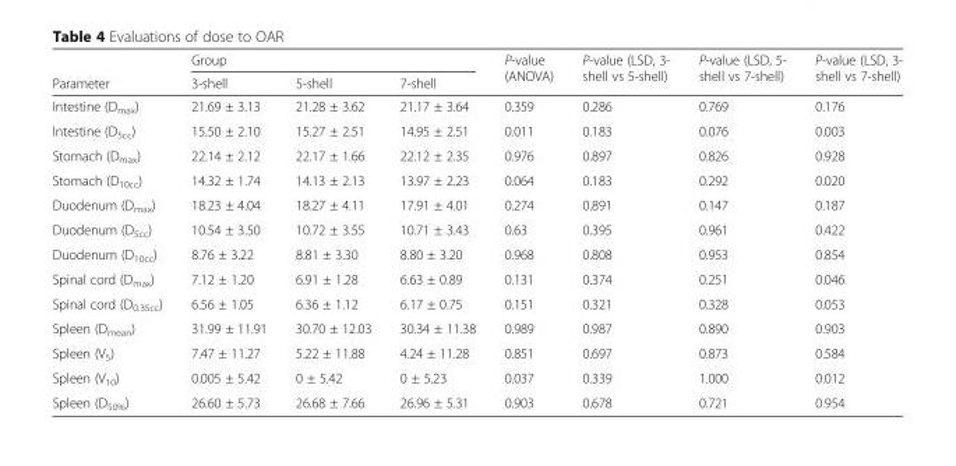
<table><thead><tr><td rowspan="2">Parameter</td><td colspan="3">Group</td><td rowspan="2">P-value (ANOVA)</td><td rowspan="2">P-value (LSD, 3- shell vs 5-shell)</td><td rowspan="2">P-value (LSD, 5- shell vs 7-shell)</td><td rowspan="2">P-value (LSD, 3- shell vs 7-shell)</td></tr><tr><td>3-shell</td><td>5-shell</td><td>7-shell</td></tr></thead><tbody><tr><td>Intestine (D<sub>max</sub>)</td><td>21.69 ± 3.13</td><td>21.28 ± 3.62</td><td>21.17 ± 3.64</td><td>0.359</td><td>0.286</td><td>0.769</td><td>0.176</td></tr><tr><td>Intestine (D<sub>5cc</sub>)</td><td>15.50 ± 2.10</td><td>15.27 ± 2.51</td><td>14.95 ± 2.51</td><td>0.011</td><td>0.183</td><td>0.076</td><td>0.003</td></tr><tr><td>Stomach (D<sub>max</sub>)</td><td>22.14 ± 2.12</td><td>22.17 ± 1.66</td><td>22.12 ± 2.35</td><td>0.976</td><td>0.897</td><td>0.826</td><td>0.928</td></tr><tr><td>Stomach (D<sub>10cc</sub>)</td><td>14.32 ± 1.74</td><td>14.13 ± 2.13</td><td>13.97 ± 2.23</td><td>0.064</td><td>0.183</td><td>0.292</td><td>0.020</td></tr><tr><td>Duodenum (D<sub>max</sub>)</td><td>18.23 ± 4.04</td><td>18.27 ± 4.11</td><td>17.91 ± 4.01</td><td>0.274</td><td>0.891</td><td>0.147</td><td>0.187</td></tr><tr><td>Duodenum (D<sub>5cc</sub>)</td><td>10.54 ± 3.50</td><td>10.72 ± 3.55</td><td>10.71 ± 3.43</td><td>0.63</td><td>0.395</td><td>0.961</td><td>0.422</td></tr><tr><td>Duodenum (D<sub>10cc</sub>)</td><td>8.76 ± 3.22</td><td>8.81 ± 3.30</td><td>8.80 ± 3.20</td><td>0.968</td><td>0.808</td><td>0.953</td><td>0.854</td></tr><tr><td>Spinal cord (D<sub>max</sub>)</td><td>7.12 ± 1.20</td><td>6.91 ± 1.28</td><td>6.63 ± 0.89</td><td>0.131</td><td>0.374</td><td>0.251</td><td>0.046</td></tr><tr><td>Spinal cord (D<sub>0.35cc</sub>)</td><td>6.56 ± 1.05</td><td>6.36 ± 1.12</td><td>6.17 ± 0.75</td><td>0.151</td><td>0.321</td><td>0.328</td><td>0.053</td></tr><tr><td>Spleen (D<sub>mean</sub>)</td><td>31.99 ± 11.91</td><td>30.70 ± 12.03</td><td>30.34 ± 11.38</td><td>0.989</td><td>0.987</td><td>0.890</td><td>0.903</td></tr><tr><td>Spleen (V<sub>5</sub>)</td><td>7.47 ± 11.27</td><td>5.22 ± 11.88</td><td>4.24 ± 11.28</td><td>0.851</td><td>0.697</td><td>0.873</td><td>0.584</td></tr><tr><td>Spleen (V<sub>10</sub>)</td><td>0.005 ± 5.42</td><td>0 ± 5.42</td><td>0 ± 5.23</td><td>0.037</td><td>0.339</td><td>1.000</td><td>0.012</td></tr><tr><td>Spleen (D<sub>50%</sub>)</td><td>26.60 ± 5.73</td><td>26.68 ± 7.66</td><td>26.96 ± 5.31</td><td>0.903</td><td>0.678</td><td>0.721</td><td>0.954</td></tr></tbody></table>